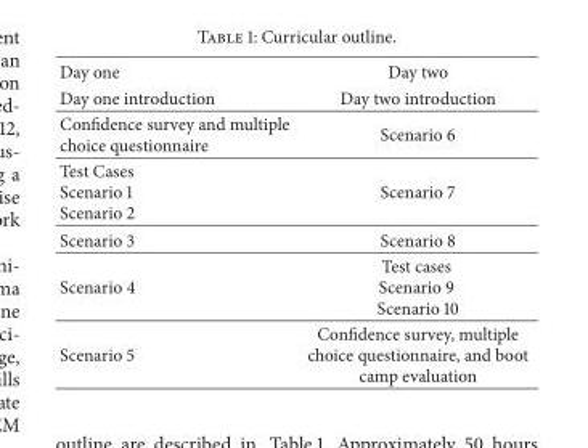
<table><thead><tr><td rowspan="2">Day one Day one introduction</td><td rowspan="2">Day two Day two introduction</td></tr><tr></tr></thead><tbody><tr><td>Confidence survey and multiple choice questionnaire</td><td>Scenario 6</td></tr><tr><td>Test Cases Scenario 1 Scenario 2</td><td>Scenario 7</td></tr><tr><td>Scenario 3</td><td>Scenario 8</td></tr><tr><td>Scenario 4</td><td>Test cases Scenario 9 Scenario 10</td></tr><tr><td>Scenario 5</td><td>Confidence survey, multiple choice questionnaire, and boot camp evaluation</td></tr></tbody></table>